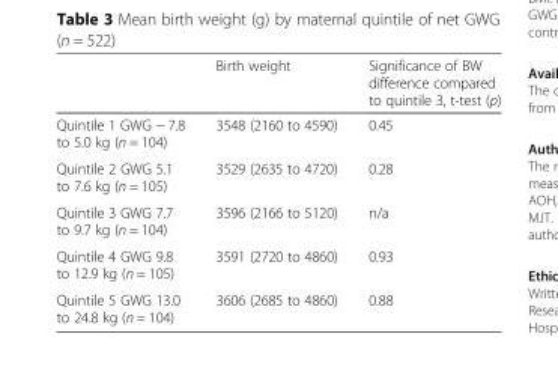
<table><thead><tr><td></td><td>Birth weight</td><td>Significance of BW difference compared to quintile 3, t-test (p)</td></tr></thead><tbody><tr><td>Quintile 1 GWG − 7.8 to 5.0 kg (n = 104)</td><td>3548 (2160 to 4590)</td><td>0.45</td></tr><tr><td>Quintile 2 GWG 5.1 to 7.6 kg (n = 105)</td><td>3529 (2635 to 4720)</td><td>0.28</td></tr><tr><td>Quintile 3 GWG 7.7 to 9.7 kg (n = 104)</td><td>3596 (2166 to 5120)</td><td>n/a</td></tr><tr><td>Quintile 4 GWG 9.8 to 12.9 kg (n = 105)</td><td>3591 (2720 to 4860)</td><td>0.93</td></tr><tr><td>Quintile 5 GWG 13.0 to 24.8 kg (n = 104)</td><td>3606 (2685 to 4860)</td><td>0.88</td></tr></tbody></table>